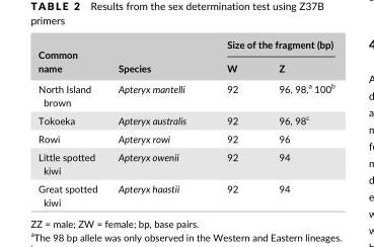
<table><thead><tr><td rowspan="2">Common name</td><td rowspan="2">Species</td><td colspan="2">Size of the fragment (bp)</td></tr><tr><td>W</td><td>Z</td></tr></thead><tbody><tr><td>North Island brown</td><td>Apteryx mantelli</td><td>92</td><td>96, 98,<sup>a</sup> 100<sup>b</sup></td></tr><tr><td>Tokoeka</td><td>Apteryx australis</td><td>92</td><td>96, 98<sup>c</sup></td></tr><tr><td>Rowi</td><td>Apteryx rowi</td><td>92</td><td>96</td></tr><tr><td>Little spotted kiwi</td><td>Apteryx owenii</td><td>92</td><td>94</td></tr><tr><td>Great spotted kiwi</td><td>Apteryx haastii</td><td>92</td><td>94</td></tr></tbody></table>